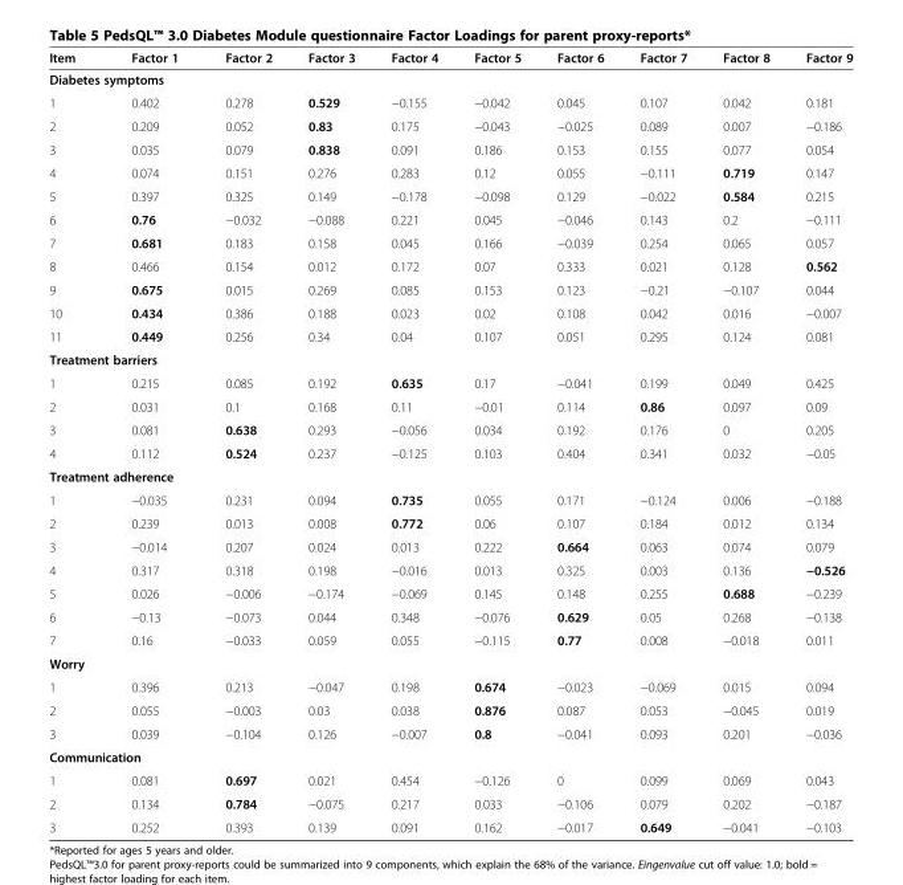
<table><thead><tr><td>Item</td><td>Factor 1</td><td>Factor 2</td><td>Factor 3</td><td>Factor 4</td><td>Factor 5</td><td>Factor 6</td><td>Factor 7</td><td>Factor 8</td><td>Factor 9</td></tr></thead><tbody><tr><td colspan="10">Diabetes symptoms</td></tr><tr><td>1</td><td>0.402</td><td>0.278</td><td>0.529</td><td>−0.155</td><td>−0.042</td><td>0.045</td><td>0.107</td><td>0.042</td><td>0.181</td></tr><tr><td>2</td><td>0.209</td><td>0.052</td><td>0.83</td><td>0.175</td><td>−0.043</td><td>−0.025</td><td>0.089</td><td>0.007</td><td>−0.186</td></tr><tr><td>3</td><td>0.035</td><td>0.079</td><td>0.838</td><td>0.091</td><td>0.186</td><td>0.153</td><td>0.155</td><td>0.077</td><td>0.054</td></tr><tr><td>4</td><td>0.074</td><td>0.151</td><td>0.276</td><td>0.283</td><td>0.12</td><td>0.055</td><td>−0.111</td><td>0.719</td><td>0.147</td></tr><tr><td>5</td><td>0.397</td><td>0.325</td><td>0.149</td><td>−0.178</td><td>−0.098</td><td>0.129</td><td>−0.022</td><td>0.584</td><td>0.215</td></tr><tr><td>6</td><td>0.76</td><td>−0.032</td><td>−0.088</td><td>0.221</td><td>0.045</td><td>−0.046</td><td>0.143</td><td>0.2</td><td>−0.111</td></tr><tr><td>7</td><td>0.681</td><td>0.183</td><td>0.158</td><td>0.045</td><td>0.166</td><td>−0.039</td><td>0.254</td><td>0.065</td><td>0.057</td></tr><tr><td>8</td><td>0.466</td><td>0.154</td><td>0.012</td><td>0.172</td><td>0.07</td><td>0.333</td><td>0.021</td><td>0.128</td><td>0.562</td></tr><tr><td>9</td><td>0.675</td><td>0.015</td><td>0.269</td><td>0.085</td><td>0.153</td><td>0.123</td><td>−0.21</td><td>−0.107</td><td>0.044</td></tr><tr><td>10</td><td>0.434</td><td>0.386</td><td>0.188</td><td>0.023</td><td>0.02</td><td>0.108</td><td>0.042</td><td>0.016</td><td>−0.007</td></tr><tr><td>11</td><td>0.449</td><td>0.256</td><td>0.34</td><td>0.04</td><td>0.107</td><td>0.051</td><td>0.295</td><td>0.124</td><td>0.081</td></tr><tr><td colspan="10">Treatment barriers</td></tr><tr><td>1</td><td>0.215</td><td>0.085</td><td>0.192</td><td>0.635</td><td>0.17</td><td>−0.041</td><td>0.199</td><td>0.049</td><td>0.425</td></tr><tr><td>2</td><td>0.031</td><td>0.1</td><td>0.168</td><td>0.11</td><td>−0.01</td><td>0.114</td><td>0.86</td><td>0.097</td><td>0.09</td></tr><tr><td>3</td><td>0.081</td><td>0.638</td><td>0.293</td><td>−0.056</td><td>0.034</td><td>0.192</td><td>0.176</td><td>0</td><td>0.205</td></tr><tr><td>4</td><td>0.112</td><td>0.524</td><td>0.237</td><td>−0.125</td><td>0.103</td><td>0.404</td><td>0.341</td><td>0.032</td><td>−0.05</td></tr><tr><td colspan="10">Treatment adherence</td></tr><tr><td>1</td><td>−0.035</td><td>0.231</td><td>0.094</td><td>0.735</td><td>0.055</td><td>0.171</td><td>−0.124</td><td>0.006</td><td>−0.188</td></tr><tr><td>2</td><td>0.239</td><td>0.013</td><td>0.008</td><td>0.772</td><td>0.06</td><td>0.107</td><td>0.184</td><td>0.012</td><td>0.134</td></tr><tr><td>3</td><td>−0.014</td><td>0.207</td><td>0.024</td><td>0.013</td><td>0.222</td><td>0.664</td><td>0.063</td><td>0.074</td><td>0.079</td></tr><tr><td>4</td><td>0.317</td><td>0.318</td><td>0.198</td><td>−0.016</td><td>0.013</td><td>0.325</td><td>0.003</td><td>0.136</td><td>−0.526</td></tr><tr><td>5</td><td>0.026</td><td>−0.006</td><td>−0.174</td><td>−0.069</td><td>0.145</td><td>0.148</td><td>0.255</td><td>0.688</td><td>−0.239</td></tr><tr><td>6</td><td>−0.13</td><td>−0.073</td><td>0.044</td><td>0.348</td><td>−0.076</td><td>0.629</td><td>0.05</td><td>0.268</td><td>−0.138</td></tr><tr><td>7</td><td>0.16</td><td>−0.033</td><td>0.059</td><td>0.055</td><td>−0.115</td><td>0.77</td><td>0.008</td><td>−0.018</td><td>0.011</td></tr><tr><td colspan="10">Worry</td></tr><tr><td>1</td><td>0.396</td><td>0.213</td><td>−0.047</td><td>0.198</td><td>0.674</td><td>−0.023</td><td>−0.069</td><td>0.015</td><td>0.094</td></tr><tr><td>2</td><td>0.055</td><td>−0.003</td><td>0.03</td><td>0.038</td><td>0.876</td><td>0.087</td><td>0.053</td><td>−0.045</td><td>0.019</td></tr><tr><td>3</td><td>0.039</td><td>−0.104</td><td>0.126</td><td>−0.007</td><td>0.8</td><td>−0.041</td><td>0.093</td><td>0.201</td><td>−0.036</td></tr><tr><td colspan="10">Communication</td></tr><tr><td>1</td><td>0.081</td><td>0.697</td><td>0.021</td><td>0.454</td><td>−0.126</td><td>0</td><td>0.099</td><td>0.069</td><td>0.043</td></tr><tr><td>2</td><td>0.134</td><td>0.784</td><td>−0.075</td><td>0.217</td><td>0.033</td><td>−0.106</td><td>0.079</td><td>0.202</td><td>−0.187</td></tr><tr><td>3</td><td>0.252</td><td>0.393</td><td>0.139</td><td>0.091</td><td>0.162</td><td>−0.017</td><td>0.649</td><td>−0.041</td><td>−0.103</td></tr></tbody></table>